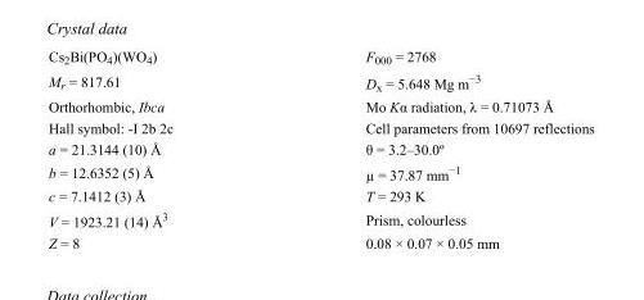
<table><tbody><tr><td>Cs<sub>2</sub>Bi(PO<sub>4</sub>)(WO<sub>4</sub>)</td><td>F000 = 2768</td></tr><tr><td>M<sub>r</sub> = 817.61</td><td>D<sub>x</sub> = 5.648 Mg m<sup>−3</sup></td></tr><tr><td>Orthorhombic, Ibca</td><td>Mo Kα radiation, λ = 0.71073 Å</td></tr><tr><td>Hall symbol: -I 2b 2c</td><td>Cell parameters from 10697 reflections</td></tr><tr><td>a = 21.3144 (10) Å</td><td>θ = 3.2–30.0º</td></tr><tr><td>b = 12.6352 (5) Å</td><td>µ = 37.87 mm<sup>−1</sup></td></tr><tr><td>c = 7.1412 (3) Å</td><td>T = 293 K</td></tr><tr><td>V = 1923.21 (14) Å<sup>3</sup></td><td>Prism, colourless</td></tr><tr><td>Z = 8</td><td>0.08 × 0.07 × 0.05 mm</td></tr></tbody></table>